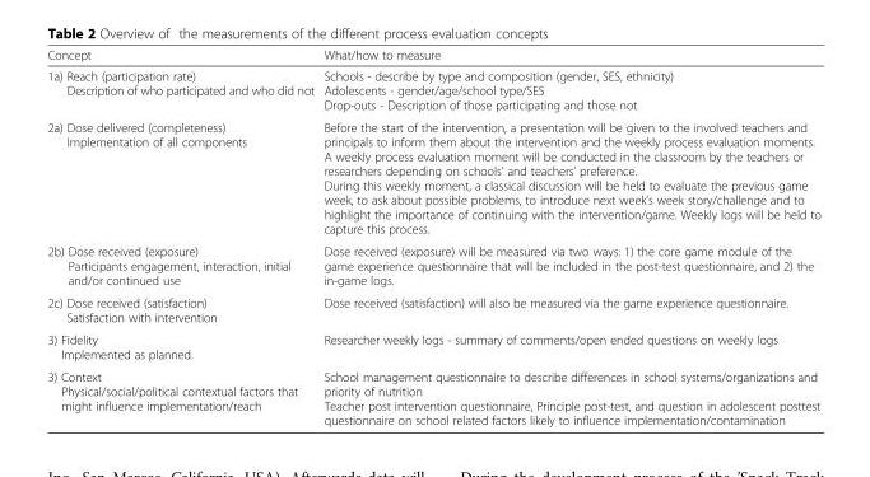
<table><thead><tr><td>Concept</td><td>What/how to measure</td></tr></thead><tbody><tr><td>1a) Reach (participation rate) Description of who participated and who did not</td><td>Schools - describe by type and composition (gender, SES, ethnicity) Adolescents - gender/age/school type/SES Drop-outs - Description of those participating and those not</td></tr><tr><td>2a) Dose delivered (completeness) Implementation of all components</td><td>Before the start of the intervention, a presentation will be given to the involved teachers and principals to inform them about the intervention and the weekly process evaluation moments. A weekly process evaluation moment will be conducted in the classroom by the teachers or researchers depending on schools’ and teachers’ preference. During this weekly moment, a classical discussion will be held to evaluate the previous game week, to ask about possible problems, to introduce next week’s week story/challenge and to highlight the importance of continuing with the intervention/game. Weekly logs will be held to capture this process.</td></tr><tr><td>2b) Dose received (exposure) Participants engagement, interaction, initial and/or continued use</td><td>Dose received (exposure) will be measured via two ways: 1) the core game module of the game experience questionnaire that will be included in the post-test questionnaire, and 2) the in-game logs.</td></tr><tr><td>2c) Dose received (satisfaction) Satisfaction with intervention</td><td>Dose received (satisfaction) will also be measured via the game experience questionnaire.</td></tr><tr><td>3) Fidelity Implemented as planned.</td><td>Researcher weekly logs - summary of comments/open ended questions on weekly logs</td></tr><tr><td>3) Context Physical/social/political contextual factors that might influence implementation/reach</td><td>School management questionnaire to describe differences in school systems/organizations and priority of nutrition Teacher post intervention questionnaire, Principle post-test, and question in adolescent posttest questionnaire on school related factors likely to influence implementation/contamination</td></tr></tbody></table>